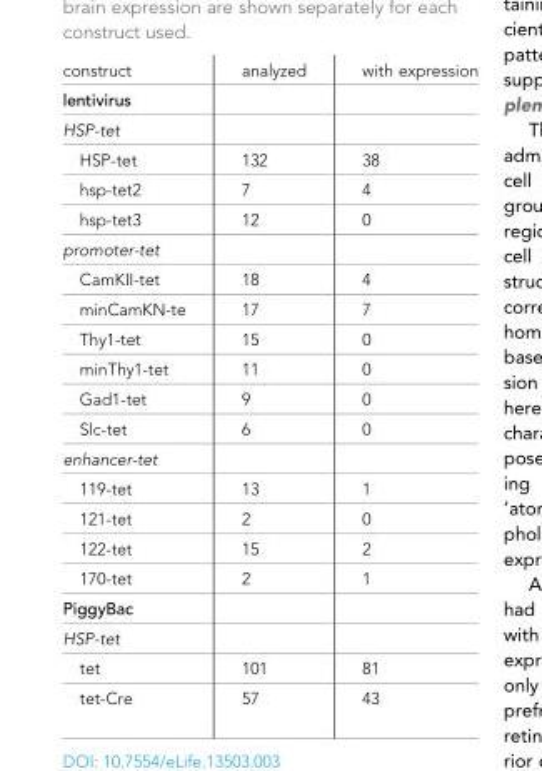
<table><tbody><tr><td>construct</td><td>analyzed</td><td>with expression</td></tr><tr><td colspan="3">lentivirus</td></tr><tr><td colspan="3">HSP-tet</td></tr><tr><td>HSP-tet</td><td>132</td><td>38</td></tr><tr><td>hsp-tet2</td><td>7</td><td>4</td></tr><tr><td>hsp-tet3</td><td>12</td><td>0</td></tr><tr><td colspan="3">promoter-tet</td></tr><tr><td>CamKII-tet</td><td>18</td><td>4</td></tr><tr><td>minCamKN-te</td><td>17</td><td>7</td></tr><tr><td>Thy1-tet</td><td>15</td><td>0</td></tr><tr><td>minThy1-tet</td><td>11</td><td>0</td></tr><tr><td>Gad1-tet</td><td>9</td><td>0</td></tr><tr><td>Slc-tet</td><td>6</td><td>0</td></tr><tr><td colspan="3">enhancer-tet</td></tr><tr><td>119-tet</td><td>13</td><td>1</td></tr><tr><td>121-tet</td><td>2</td><td>0</td></tr><tr><td>122-tet</td><td>15</td><td>2</td></tr><tr><td>170-tet</td><td>2</td><td>1</td></tr><tr><td colspan="3">PiggyBac</td></tr><tr><td colspan="3">HSP-tet</td></tr><tr><td>tet</td><td>101</td><td>81</td></tr><tr><td>tet-Cre</td><td>57</td><td>43</td></tr></tbody></table>